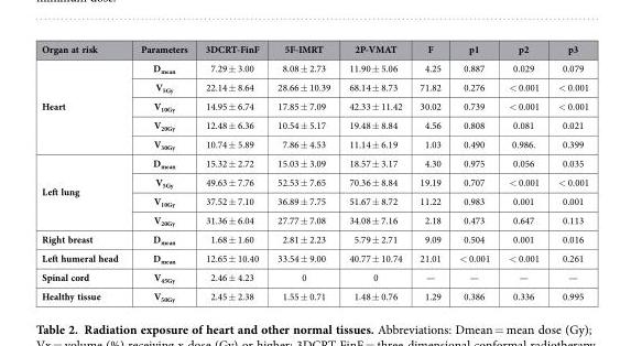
<table><thead><tr><td>Organ at risk</td><td>Parameters</td><td>3DCRT-FinF</td><td>5F-IMRT</td><td>2P-VMAT</td><td>F</td><td>p1</td><td>p2</td><td>p3</td></tr></thead><tbody><tr><td rowspan="5">Heart</td><td>D<sub>mean</sub></td><td>7.29 ± 3.00</td><td>8.08 ± 2.73</td><td>11.90 ± 5.06</td><td>4.25</td><td>0.887</td><td>0.029</td><td>0.079</td></tr><tr><td>V<sub>5Gy</sub></td><td>22.14 ± 8.64</td><td>28.66 ± 10.39</td><td>68.14 ± 8.73</td><td>71.82</td><td>0.276</td><td>&lt; 0.001</td><td>&lt; 0.001</td></tr><tr><td>V<sub>10Gy</sub></td><td>14.95 ± 6.74</td><td>17.85 ± 7.09</td><td>42.33 ± 11.42</td><td>30.02</td><td>0.739</td><td>&lt; 0.001</td><td>&lt; 0.001</td></tr><tr><td>V<sub>20Gy</sub></td><td>12.48 ± 6.36</td><td>10.54 ± 5.17</td><td>19.48 ± 8.84</td><td>4.56</td><td>0.808</td><td>0.081</td><td>0.021</td></tr><tr><td>V<sub>30Gy</sub></td><td>10.74 ± 5.89</td><td>7.86 ± 4.53</td><td>11.14 ± 6.19</td><td>1.03</td><td>0.490</td><td>0.986.</td><td>0.399</td></tr><tr><td rowspan="4">Left lung</td><td>D<sub>mean</sub></td><td>15.32 ± 2.72</td><td>15.03 ± 3.09</td><td>18.57 ± 3.17</td><td>4.30</td><td>0.975</td><td>0.056</td><td>0.035</td></tr><tr><td>V<sub>5Gy</sub></td><td>49.63 ± 7.76</td><td>52.53 ± 7.65</td><td>70.36 ± 8.84</td><td>19.19</td><td>0.707</td><td>&lt; 0.001</td><td>&lt; 0.001</td></tr><tr><td>V<sub>10Gy</sub></td><td>37.52 ± 7.10</td><td>36.89 ± 7.75</td><td>51.67 ± 8.72</td><td>11.22</td><td>0.983</td><td>0.001</td><td>0.001</td></tr><tr><td>V<sub>20Gy</sub></td><td>31.36 ± 6.04</td><td>27.77 ± 7.08</td><td>34.08 ± 7.16</td><td>2.18</td><td>0.473</td><td>0.647</td><td>0.113</td></tr><tr><td>Right breast</td><td>D<sub>mean</sub></td><td>1.68 ± 1.60</td><td>2.81 ± 2.23</td><td>5.79 ± 2.71</td><td>9.09</td><td>0.504</td><td>0.001</td><td>0.016</td></tr><tr><td>Left humeral head</td><td>D<sub>mean</sub></td><td>12.65 ± 10.40</td><td>33.54 ± 9.00</td><td>40.77 ± 10.74</td><td>21.01</td><td>&lt; 0.001</td><td>&lt; 0.001</td><td>0.261</td></tr><tr><td>Spinal cord</td><td>V<sub>45Gy</sub></td><td>2.46 ± 4.23</td><td>0</td><td>0</td><td>—</td><td>—</td><td>—</td><td>—</td></tr><tr><td>Healthy tissue</td><td>V<sub>50Gy</sub></td><td>2.45 ± 2.38</td><td>1.55 ± 0.71</td><td>1.48 ± 0.76</td><td>1.29</td><td>0.386</td><td>0.336</td><td>0.995</td></tr></tbody></table>